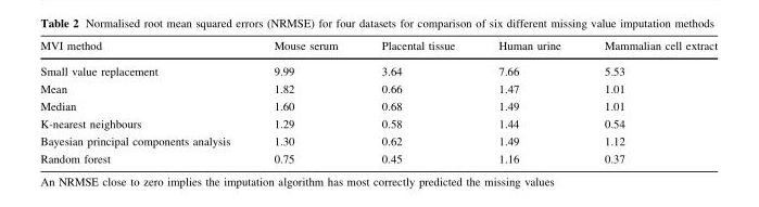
<table><thead><tr><td>MVI method</td><td>Mouse serum</td><td>Placental tissue</td><td>Human urine</td><td>Mammalian cell extract</td></tr></thead><tbody><tr><td>Small value replacement</td><td>9.99</td><td>3.64</td><td>7.66</td><td>5.53</td></tr><tr><td>Mean</td><td>1.82</td><td>0.66</td><td>1.47</td><td>1.01</td></tr><tr><td>Median</td><td>1.60</td><td>0.68</td><td>1.49</td><td>1.01</td></tr><tr><td>K-nearest neighbours</td><td>1.29</td><td>0.58</td><td>1.44</td><td>0.54</td></tr><tr><td>Bayesian principal components analysis</td><td>1.30</td><td>0.62</td><td>1.49</td><td>1.12</td></tr><tr><td>Random forest</td><td>0.75</td><td>0.45</td><td>1.16</td><td>0.37</td></tr></tbody></table>